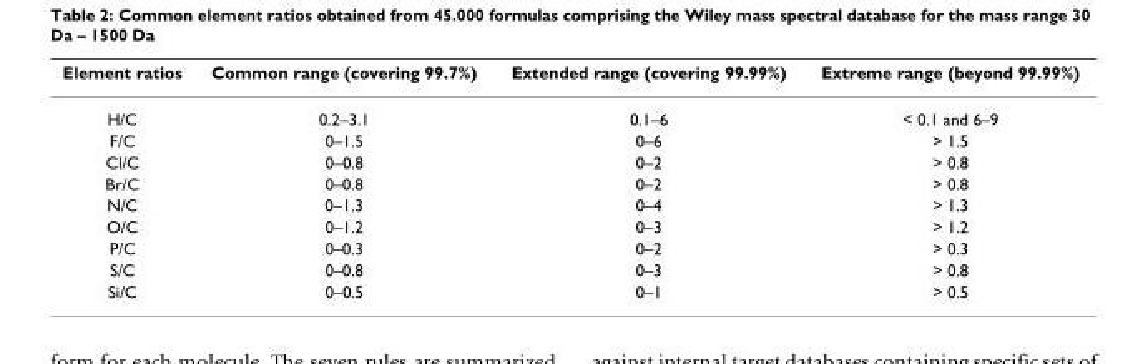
<table><thead><tr><td>Element ratios</td><td>Common range (covering 99.7%)</td><td>Extended range (covering 99.99%)</td><td>Extreme range (beyond 99.99%)</td></tr></thead><tbody><tr><td>H/C</td><td>0.2–3.1</td><td>0.1–6</td><td>&lt; 0.1 and 6–9</td></tr><tr><td>F/C</td><td>0–1.5</td><td>0–6</td><td>&gt; 1.5</td></tr><tr><td>Cl/C</td><td>0–0.8</td><td>0–2</td><td>&gt; 0.8</td></tr><tr><td>Br/C</td><td>0–0.8</td><td>0–2</td><td>&gt; 0.8</td></tr><tr><td>N/C</td><td>0–1.3</td><td>0–4</td><td>&gt; 1.3</td></tr><tr><td>O/C</td><td>0–1.2</td><td>0–3</td><td>&gt; 1.2</td></tr><tr><td>P/C</td><td>0–0.3</td><td>0–2</td><td>&gt; 0.3</td></tr><tr><td>S/C</td><td>0–0.8</td><td>0–3</td><td>&gt; 0.8</td></tr><tr><td>Si/C</td><td>0–0.5</td><td>0–1</td><td>&gt; 0.5</td></tr></tbody></table>